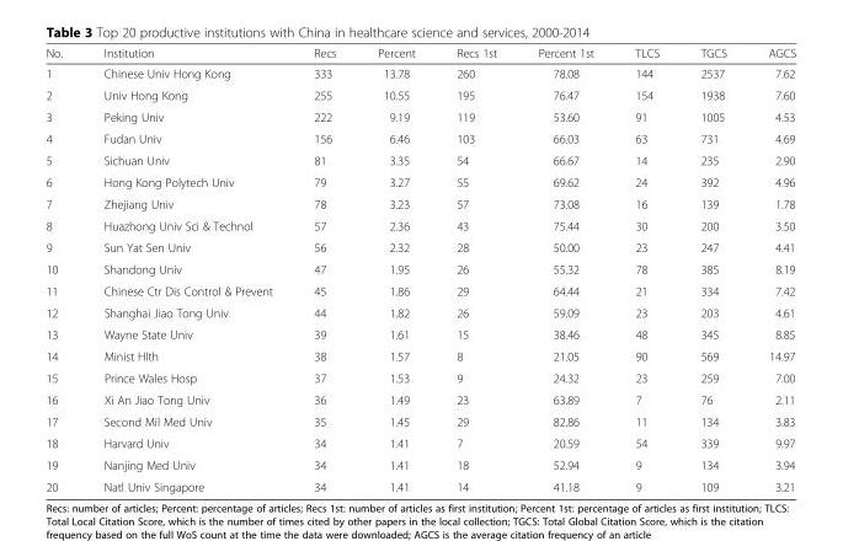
<table><thead><tr><td>No.</td><td>Institution</td><td>Recs</td><td>Percent</td><td>Recs 1st</td><td>Percent 1st</td><td>TLCS</td><td>TGCS</td><td>AGCS</td></tr></thead><tbody><tr><td>1</td><td>Chinese Univ Hong Kong</td><td>333</td><td>13.78</td><td>260</td><td>78.08</td><td>144</td><td>2537</td><td>7.62</td></tr><tr><td>2</td><td>Univ Hong Kong</td><td>255</td><td>10.55</td><td>195</td><td>76.47</td><td>154</td><td>1938</td><td>7.60</td></tr><tr><td>3</td><td>Peking Univ</td><td>222</td><td>9.19</td><td>119</td><td>53.60</td><td>91</td><td>1005</td><td>4.53</td></tr><tr><td>4</td><td>Fudan Univ</td><td>156</td><td>6.46</td><td>103</td><td>66.03</td><td>63</td><td>731</td><td>4.69</td></tr><tr><td>5</td><td>Sichuan Univ</td><td>81</td><td>3.35</td><td>54</td><td>66.67</td><td>14</td><td>235</td><td>2.90</td></tr><tr><td>6</td><td>Hong Kong Polytech Univ</td><td>79</td><td>3.27</td><td>55</td><td>69.62</td><td>24</td><td>392</td><td>4.96</td></tr><tr><td>7</td><td>Zhejiang Univ</td><td>78</td><td>3.23</td><td>57</td><td>73.08</td><td>16</td><td>139</td><td>1.78</td></tr><tr><td>8</td><td>Huazhong Univ Sci &amp; Technol</td><td>57</td><td>2.36</td><td>43</td><td>75.44</td><td>30</td><td>200</td><td>3.50</td></tr><tr><td>9</td><td>Sun Yat Sen Univ</td><td>56</td><td>2.32</td><td>28</td><td>50.00</td><td>23</td><td>247</td><td>4.41</td></tr><tr><td>10</td><td>Shandong Univ</td><td>47</td><td>1.95</td><td>26</td><td>55.32</td><td>78</td><td>385</td><td>8.19</td></tr><tr><td>11</td><td>Chinese Ctr Dis Control &amp; Prevent</td><td>45</td><td>1.86</td><td>29</td><td>64.44</td><td>21</td><td>334</td><td>7.42</td></tr><tr><td>12</td><td>Shanghai Jiao Tong Univ</td><td>44</td><td>1.82</td><td>26</td><td>59.09</td><td>23</td><td>203</td><td>4.61</td></tr><tr><td>13</td><td>Wayne State Univ</td><td>39</td><td>1.61</td><td>15</td><td>38.46</td><td>48</td><td>345</td><td>8.85</td></tr><tr><td>14</td><td>Minist Hlth</td><td>38</td><td>1.57</td><td>8</td><td>21.05</td><td>90</td><td>569</td><td>14.97</td></tr><tr><td>15</td><td>Prince Wales Hosp</td><td>37</td><td>1.53</td><td>9</td><td>24.32</td><td>23</td><td>259</td><td>7.00</td></tr><tr><td>16</td><td>Xi An Jiao Tong Univ</td><td>36</td><td>1.49</td><td>23</td><td>63.89</td><td>7</td><td>76</td><td>2.11</td></tr><tr><td>17</td><td>Second Mil Med Univ</td><td>35</td><td>1.45</td><td>29</td><td>82.86</td><td>11</td><td>134</td><td>3.83</td></tr><tr><td>18</td><td>Harvard Univ</td><td>34</td><td>1.41</td><td>7</td><td>20.59</td><td>54</td><td>339</td><td>9.97</td></tr><tr><td>19</td><td>Nanjing Med Univ</td><td>34</td><td>1.41</td><td>18</td><td>52.94</td><td>9</td><td>134</td><td>3.94</td></tr><tr><td>20</td><td>Natl Univ Singapore</td><td>34</td><td>1.41</td><td>14</td><td>41.18</td><td>9</td><td>109</td><td>3.21</td></tr></tbody></table>